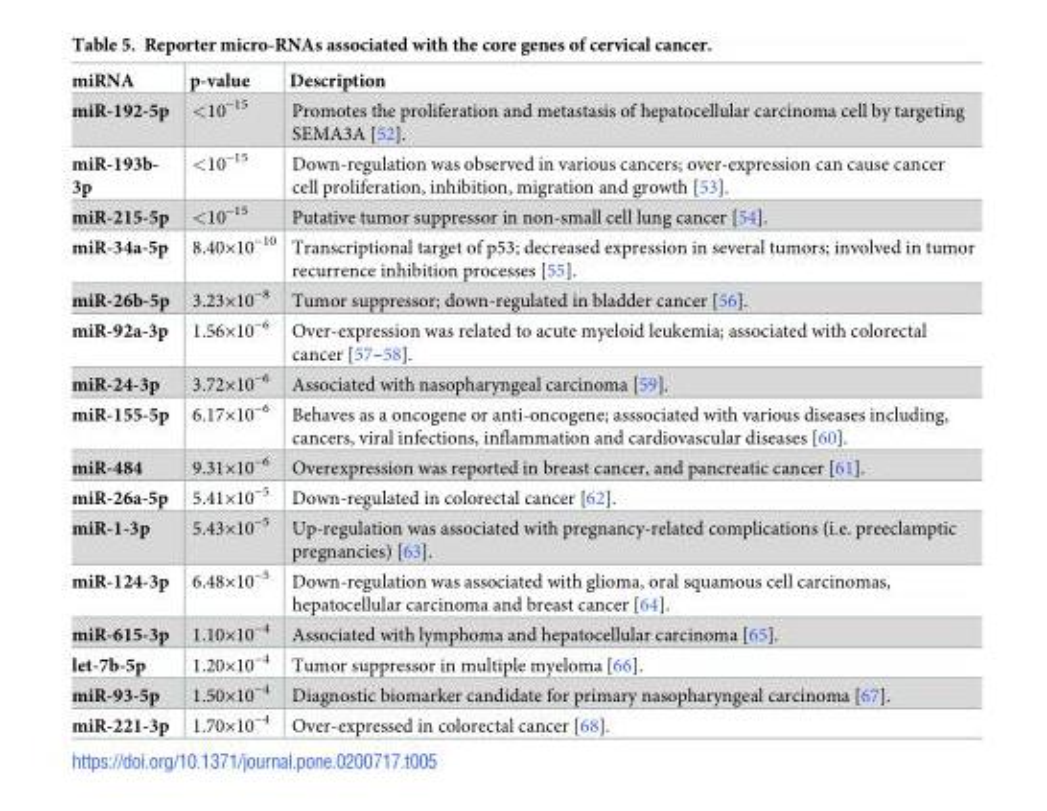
<table><thead><tr><td>miRNA</td><td>p-value</td><td>Description</td></tr></thead><tbody><tr><td>miR-192-5p</td><td>&lt;10<sup>−15</sup></td><td>Promotes the proliferation and metastasis of hepatocellular carcinoma cell by targeting SEMA3A [52].</td></tr><tr><td>miR-193b- 3p</td><td>&lt;10<sup>−15</sup></td><td>Down-regulation was observed in various cancers; over-expression can cause cancer cell proliferation, inhibition, migration and growth [53].</td></tr><tr><td>miR-215-5p</td><td>&lt;10<sup>−15</sup></td><td>Putative tumor suppressor in non-small cell lung cancer [54].</td></tr><tr><td>miR-34a-5p</td><td>8.40×10<sup>−10</sup></td><td>Transcriptional target of p53; decreased expression in several tumors; involved in tumor recurrence inhibition processes [55].</td></tr><tr><td>miR-26b-5p</td><td>3.23×10<sup>−8</sup></td><td>Tumor suppressor; down-regulated in bladder cancer [56].</td></tr><tr><td>miR-92a-3p</td><td>1.56×10<sup>−6</sup></td><td>Over-expression was related to acute myeloid leukemia; associated with colorectal cancer [57–58].</td></tr><tr><td>miR-24-3p</td><td>3.72×10<sup>−6</sup></td><td>Associated with nasopharyngeal carcinoma [59].</td></tr><tr><td>miR-155-5p</td><td>6.17×10<sup>−6</sup></td><td>Behaves as a oncogene or anti-oncogene; asssociated with various diseases including, cancers, viral infections, inflammation and cardiovascular diseases [60].</td></tr><tr><td>miR-484</td><td>9.31×10<sup>−6</sup></td><td>Overexpression was reported in breast cancer, and pancreatic cancer [61].</td></tr><tr><td>miR-26a-5p</td><td>5.41×10<sup>−5</sup></td><td>Down-regulated in colorectal cancer [62].</td></tr><tr><td>miR-1-3p</td><td>5.43×10<sup>−5</sup></td><td>Up-regulation was associated with pregnancy-related complications (i.e. preeclamptic pregnancies) [63].</td></tr><tr><td>miR-124-3p</td><td>6.48×10<sup>−5</sup></td><td>Down-regulation was associated with glioma, oral squamous cell carcinomas, hepatocellular carcinoma and breast cancer [64].</td></tr><tr><td>miR-615-3p</td><td>1.10×10<sup>−4</sup></td><td>Associated with lymphoma and hepatocellular carcinoma [65].</td></tr><tr><td>let-7b-5p</td><td>1.20×10<sup>−4</sup></td><td>Tumor suppressor in multiple myeloma [66].</td></tr><tr><td>miR-93-5p</td><td>1.50×10<sup>−4</sup></td><td>Diagnostic biomarker candidate for primary nasopharyngeal carcinoma [67].</td></tr><tr><td>miR-221-3p</td><td>1.70×10<sup>−4</sup></td><td>Over-expressed in colorectal cancer [68].</td></tr></tbody></table>